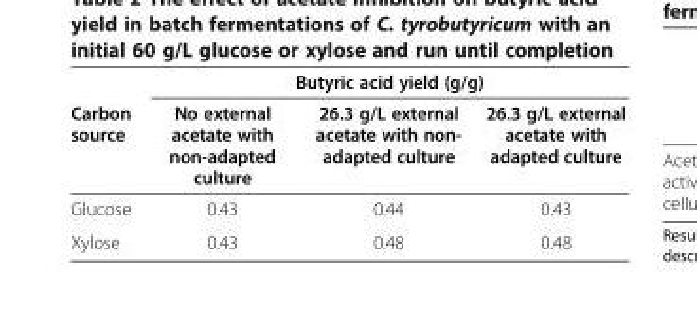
<table><thead><tr><td rowspan="2">Carbon source</td><td colspan="3">Butyric acid yield (g/g)</td></tr><tr><td>No external acetate with non-adapted culture</td><td>26.3 g/L external acetate with non- adapted culture</td><td>26.3 g/L external acetate with adapted culture</td></tr></thead><tbody><tr><td>Glucose</td><td>0.43</td><td>0.44</td><td>0.43</td></tr><tr><td>Xylose</td><td>0.43</td><td>0.48</td><td>0.48</td></tr></tbody></table>